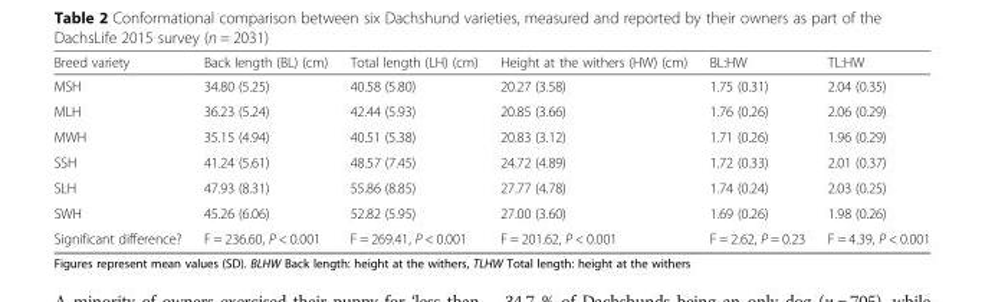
<table><thead><tr><td>Breed variety</td><td>Back length (BL) (cm)</td><td>Total length (LH) (cm)</td><td>Height at the withers (HW) (cm)</td><td>BL:HW</td><td>TL:HW</td></tr></thead><tbody><tr><td>MSH</td><td>34.80 (5.25)</td><td>40.58 (5.80)</td><td>20.27 (3.58)</td><td>1.75 (0.31)</td><td>2.04 (0.35)</td></tr><tr><td>MLH</td><td>36.23 (5.24)</td><td>42.44 (5.93)</td><td>20.85 (3.66)</td><td>1.76 (0.26)</td><td>2.06 (0.29)</td></tr><tr><td>MWH</td><td>35.15 (4.94)</td><td>40.51 (5.38)</td><td>20.83 (3.12)</td><td>1.71 (0.26)</td><td>1.96 (0.29)</td></tr><tr><td>SSH</td><td>41.24 (5.61)</td><td>48.57 (7.45)</td><td>24.72 (4.89)</td><td>1.72 (0.33)</td><td>2.01 (0.37)</td></tr><tr><td>SLH</td><td>47.93 (8.31)</td><td>55.86 (8.85)</td><td>27.77 (4.78)</td><td>1.74 (0.24)</td><td>2.03 (0.25)</td></tr><tr><td>SWH</td><td>45.26 (6.06)</td><td>52.82 (5.95)</td><td>27.00 (3.60)</td><td>1.69 (0.26)</td><td>1.98 (0.26)</td></tr><tr><td>Significant difference?</td><td>F = 236.60, P &lt; 0.001</td><td>F = 269.41, P &lt; 0.001</td><td>F = 201.62, P &lt; 0.001</td><td>F = 2.62, P = 0.23</td><td>F = 4.39, P &lt; 0.001</td></tr></tbody></table>